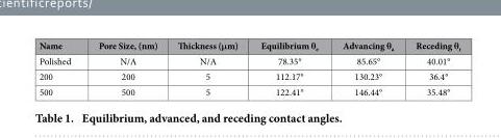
<table><thead><tr><td>Name</td><td>Pore Size, (nm)</td><td>Thickness (μm)</td><td>Equilibrium θ<sub>e</sub></td><td>Advancing θ<sub>a</sub></td><td>Receding θ<sub>r</sub></td></tr></thead><tbody><tr><td>Polished</td><td>N/A</td><td>N/A</td><td>78.35°</td><td>85.65°</td><td>40.01°</td></tr><tr><td>200</td><td>200</td><td>5</td><td>112.17°</td><td>130.23°</td><td>36.4°</td></tr><tr><td>500</td><td>500</td><td>5</td><td>122.41°</td><td>146.44°</td><td>35.48°</td></tr></tbody></table>